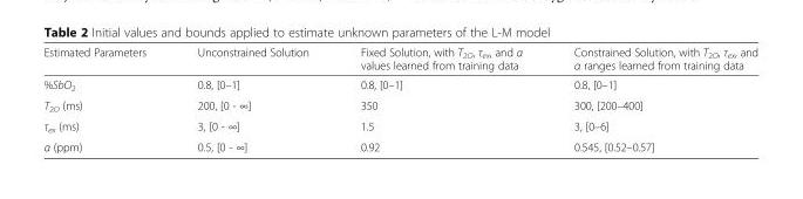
<table><thead><tr><td>Estimated Parameters</td><td>Unconstrained Solution</td><td>Fixed Solution, with T<sub>2O</sub>, τ<sub>ex</sub>, and α values learned from training data</td><td>Constrained Solution, with T<sub>2O</sub>, τ<sub>ex</sub>, and α ranges learned from training data</td></tr></thead><tbody><tr><td>%SbO<sub>2</sub></td><td>0.8, [0–1]</td><td>0.8, [0–1]</td><td>0.8, [0–1]</td></tr><tr><td>T<sub>2O</sub> (ms)</td><td>200, [0 - ∞]</td><td>350</td><td>300, [200–400]</td></tr><tr><td>τ<sub>ex</sub> (ms)</td><td>3, [0 - ∞]</td><td>1.5</td><td>3, [0–6]</td></tr><tr><td>α (ppm)</td><td>0.5, [0 - ∞]</td><td>0.92</td><td>0.545, [0.52–0.57]</td></tr></tbody></table>